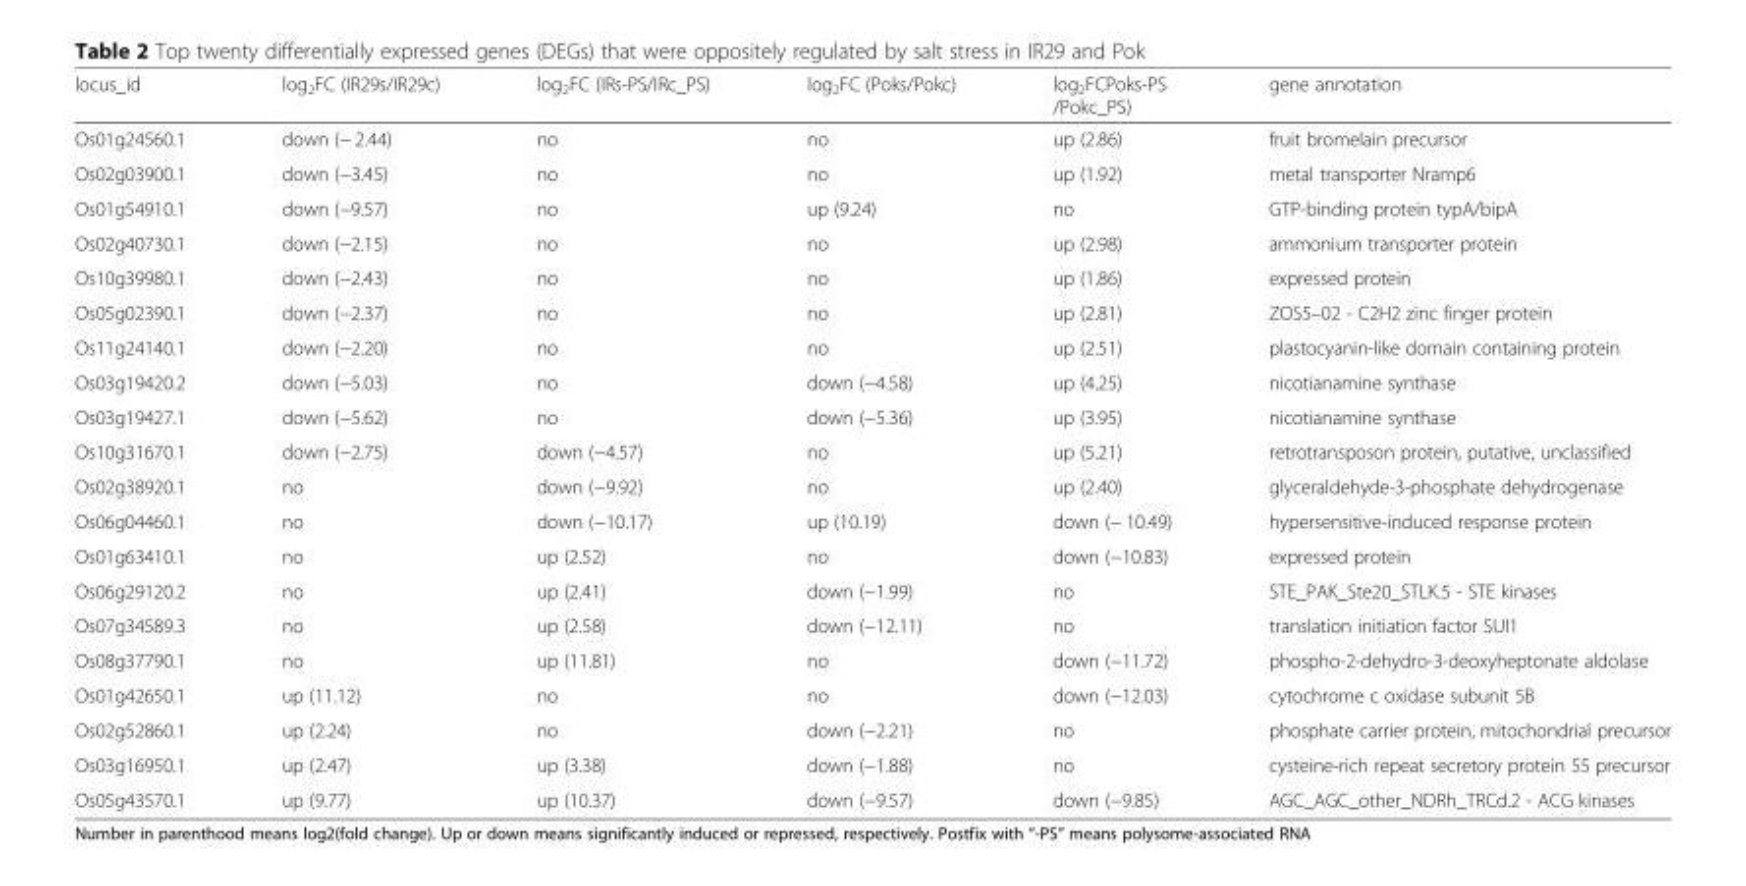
<table><thead><tr><td>locus_id</td><td>log<sub>2</sub>FC (IR29s/IR29c)</td><td>log<sub>2</sub>FC (IRs-PS/IRc_PS)</td><td>log<sub>2</sub>FC (Poks/Pokc)</td><td>log<sub>2</sub>FCPoks-PS /Pokc_PS)</td><td>gene annotation</td></tr></thead><tbody><tr><td>Os01g24560.1</td><td>down (− 2.44)</td><td>no</td><td>no</td><td>up (2.86)</td><td>fruit bromelain precursor</td></tr><tr><td>Os02g03900.1</td><td>down (−3.45)</td><td>no</td><td>no</td><td>up (1.92)</td><td>metal transporter Nramp6</td></tr><tr><td>Os01g54910.1</td><td>down (−9.57)</td><td>no</td><td>up (9.24)</td><td>no</td><td>GTP-binding protein typA/bipA</td></tr><tr><td>Os02g40730.1</td><td>down (−2.15)</td><td>no</td><td>no</td><td>up (2.98)</td><td>ammonium transporter protein</td></tr><tr><td>Os10g39980.1</td><td>down (−2.43)</td><td>no</td><td>no</td><td>up (1.86)</td><td>expressed protein</td></tr><tr><td>Os05g02390.1</td><td>down (−2.37)</td><td>no</td><td>no</td><td>up (2.81)</td><td>ZOS5–02 - C2H2 zinc finger protein</td></tr><tr><td>Os11g24140.1</td><td>down (−2.20)</td><td>no</td><td>no</td><td>up (2.51)</td><td>plastocyanin-like domain containing protein</td></tr><tr><td>Os03g19420.2</td><td>down (−5.03)</td><td>no</td><td>down (−4.58)</td><td>up (4.25)</td><td>nicotianamine synthase</td></tr><tr><td>Os03g19427.1</td><td>down (−5.62)</td><td>no</td><td>down (−5.36)</td><td>up (3.95)</td><td>nicotianamine synthase</td></tr><tr><td>Os10g31670.1</td><td>down (−2.75)</td><td>down (−4.57)</td><td>no</td><td>up (5.21)</td><td>retrotransposon protein, putative, unclassified</td></tr><tr><td>Os02g38920.1</td><td>no</td><td>down (−9.92)</td><td>no</td><td>up (2.40)</td><td>glyceraldehyde-3-phosphate dehydrogenase</td></tr><tr><td>Os06g04460.1</td><td>no</td><td>down (−10.17)</td><td>up (10.19)</td><td>down (− 10.49)</td><td>hypersensitive-induced response protein</td></tr><tr><td>Os01g63410.1</td><td>no</td><td>up (2.52)</td><td>no</td><td>down (−10.83)</td><td>expressed protein</td></tr><tr><td>Os06g29120.2</td><td>no</td><td>up (2.41)</td><td>down (−1.99)</td><td>no</td><td>STE_PAK_Ste20_STLK.5 - STE kinases</td></tr><tr><td>Os07g34589.3</td><td>no</td><td>up (2.58)</td><td>down (−12.11)</td><td>no</td><td>translation initiation factor SUI1</td></tr><tr><td>Os08g37790.1</td><td>no</td><td>up (11.81)</td><td>no</td><td>down (−11.72)</td><td>phospho-2-dehydro-3-deoxyheptonate aldolase</td></tr><tr><td>Os01g42650.1</td><td>up (11.12)</td><td>no</td><td>no</td><td>down (−12.03)</td><td>cytochrome c oxidase subunit 5B</td></tr><tr><td>Os02g52860.1</td><td>up (2.24)</td><td>no</td><td>down (−2.21)</td><td>no</td><td>phosphate carrier protein, mitochondrial precursor</td></tr><tr><td>Os03g16950.1</td><td>up (2.47)</td><td>up (3.38)</td><td>down (−1.88)</td><td>no</td><td>cysteine-rich repeat secretory protein 55 precursor</td></tr><tr><td>Os05g43570.1</td><td>up (9.77)</td><td>up (10.37)</td><td>down (−9.57)</td><td>down (−9.85)</td><td>AGC_AGC_other_NDRh_TRCd.2 - ACG kinases</td></tr></tbody></table>